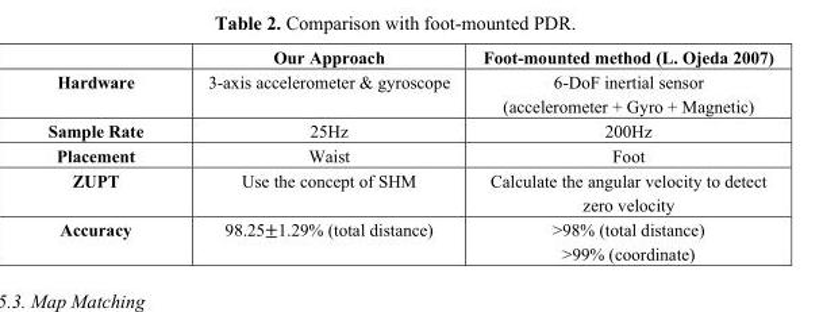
<table><thead><tr><td></td><td>Our Approach</td><td>Foot-mounted method (L. Ojeda 2007)</td></tr></thead><tbody><tr><td>Hardware</td><td>3-axis accelerometer &amp; gyroscope</td><td>6-DoF inertial sensor (accelerometer + Gyro + Magnetic)</td></tr><tr><td>Sample Rate</td><td>25Hz</td><td>200Hz</td></tr><tr><td>Placement</td><td>Waist</td><td>Foot</td></tr><tr><td>ZUPT</td><td>Use the concept of SHM</td><td>Calculate the angular velocity to detect zero velocity</td></tr><tr><td>Accuracy</td><td>98.25±1.29% (total distance)</td><td>&gt;98% (total distance) &gt;99% (coordinate)</td></tr></tbody></table>